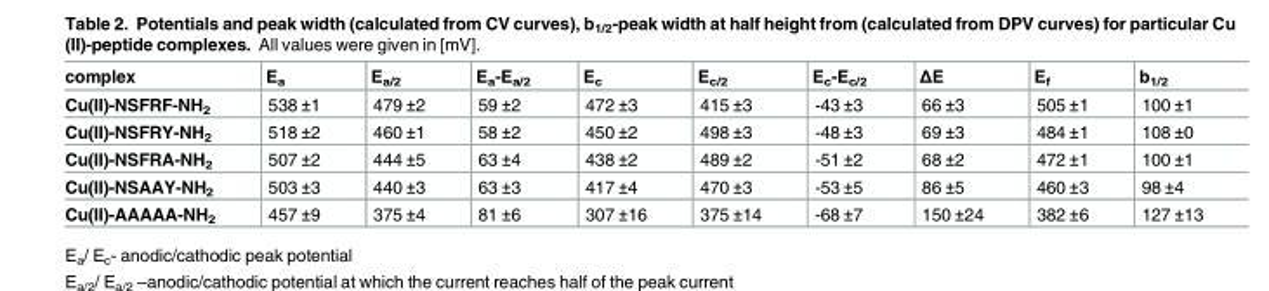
<table><thead><tr><td>complex</td><td>E<sub>a</sub></td><td>E<sub>a/2</sub></td><td>E<sub>a</sub>-E<sub>a/2</sub></td><td>E<sub>c</sub></td><td>E<sub>c/2</sub></td><td>E<sub>c</sub>-E<sub>c/2</sub></td><td>ΔE</td><td>E<sub>f</sub></td><td>b<sub>1/2</sub></td></tr></thead><tbody><tr><td>Cu(II)-NSFRF-NH<sub>2</sub></td><td>538 ±1</td><td>479 ±2</td><td>59 ±2</td><td>472 ±3</td><td>415 ±3</td><td>-43 ±3</td><td>66 ±3</td><td>505 ±1</td><td>100 ±1</td></tr><tr><td>Cu(II)-NSFRY-NH<sub>2</sub></td><td>518 ±2</td><td>460 ±1</td><td>58 ±2</td><td>450 ±2</td><td>498 ±3</td><td>-48 ±3</td><td>69 ±3</td><td>484 ±1</td><td>108 ±0</td></tr><tr><td>Cu(II)-NSFRA-NH<sub>2</sub></td><td>507 ±2</td><td>444 ±5</td><td>63 ±4</td><td>438 ±2</td><td>489 ±2</td><td>-51 ±2</td><td>68 ±2</td><td>472 ±1</td><td>100 ±1</td></tr><tr><td>Cu(II)-NSAAY-NH<sub>2</sub></td><td>503 ±3</td><td>440 ±3</td><td>63 ±3</td><td>417 ±4</td><td>470 ±3</td><td>-53 ±5</td><td>86 ±5</td><td>460 ±3</td><td>98 ±4</td></tr><tr><td>Cu(II)-AAAAA-NH<sub>2</sub></td><td>457 ±9</td><td>375 ±4</td><td>81 ±6</td><td>307 ±16</td><td>375 ±14</td><td>-68 ±7</td><td>150 ±24</td><td>382 ±6</td><td>127 ±13</td></tr></tbody></table>